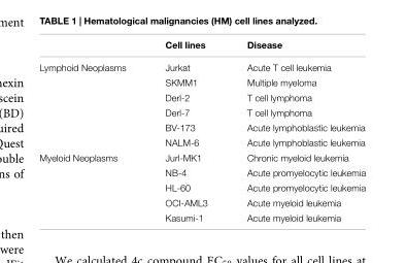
<table><thead><tr><td></td><td>Cell lines</td><td>Disease</td></tr></thead><tbody><tr><td rowspan="6">Lymphoid Neoplasms</td><td>Jurkat</td><td>Acute T cell leukemia</td></tr><tr><td>SKMM1</td><td>Multiple myeloma</td></tr><tr><td>Derl-2</td><td>T cell lymphoma</td></tr><tr><td>Derl-7</td><td>T cell lymphoma</td></tr><tr><td>BV-173</td><td>Acute lymphoblastic leukemia</td></tr><tr><td>NALM-6</td><td>Acute lymphoblastic leukemia</td></tr><tr><td rowspan="5">Myeloid Neoplasms</td><td>Jurl-MK1</td><td>Chronic myeloid leukemia</td></tr><tr><td>NB-4</td><td>Acute promyelocytic leukemia</td></tr><tr><td>HL-60</td><td>Acute promyelocytic leukemia</td></tr><tr><td>OCI-AML3</td><td>Acute myeloid leukemia</td></tr><tr><td>Kasumi-1</td><td>Acute myeloid leukemia</td></tr></tbody></table>